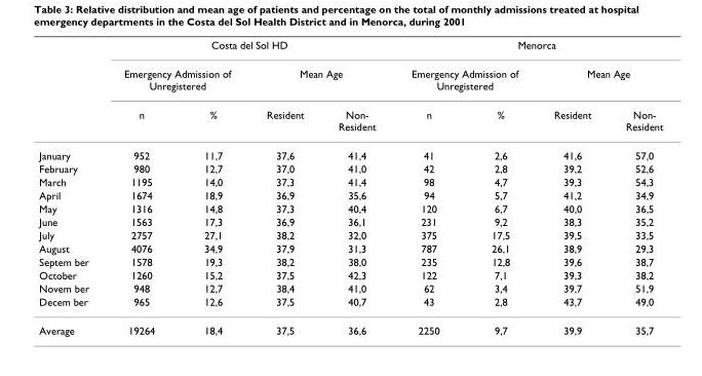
<table><thead><tr><td rowspan="3"></td><td colspan="4">Costa del Sol HD</td><td colspan="4">Menorca</td></tr><tr><td colspan="2">Emergency Admission of Unregistered</td><td colspan="2">Mean Age</td><td colspan="2">Emergency Admission of Unregistered</td><td colspan="2">Mean Age</td></tr><tr><td>n</td><td>%</td><td>Resident</td><td>Non- Resident</td><td>n</td><td>%</td><td>Resident</td><td>Non- Resident</td></tr></thead><tbody><tr><td>January</td><td>952</td><td>11,7</td><td>37,6</td><td>41,4</td><td>41</td><td>2,6</td><td>41,6</td><td>57,0</td></tr><tr><td>February</td><td>980</td><td>12,7</td><td>37,0</td><td>41,0</td><td>42</td><td>2,8</td><td>39,2</td><td>52,6</td></tr><tr><td>March</td><td>1195</td><td>14,0</td><td>37,3</td><td>41,4</td><td>98</td><td>4,7</td><td>39,3</td><td>54,3</td></tr><tr><td>April</td><td>1674</td><td>18,9</td><td>36,9</td><td>35,6</td><td>94</td><td>5,7</td><td>41,2</td><td>34,9</td></tr><tr><td>May</td><td>1316</td><td>14,8</td><td>37,3</td><td>40,4</td><td>120</td><td>6,7</td><td>40,0</td><td>36,5</td></tr><tr><td>June</td><td>1563</td><td>17,3</td><td>36,9</td><td>36,1</td><td>231</td><td>9,2</td><td>38,3</td><td>35,2</td></tr><tr><td>July</td><td>2757</td><td>27,1</td><td>38,2</td><td>32,0</td><td>375</td><td>17,5</td><td>39,5</td><td>33,5</td></tr><tr><td>August</td><td>4076</td><td>34,9</td><td>37,9</td><td>31,3</td><td>787</td><td>26,1</td><td>38,9</td><td>29,3</td></tr><tr><td>Septem ber</td><td>1578</td><td>19,3</td><td>38,2</td><td>38,0</td><td>235</td><td>12,8</td><td>39,6</td><td>38,7</td></tr><tr><td>October</td><td>1260</td><td>15,2</td><td>37,5</td><td>42,3</td><td>122</td><td>7,1</td><td>39,3</td><td>38,2</td></tr><tr><td>Novem ber</td><td>948</td><td>12,7</td><td>38,4</td><td>41,0</td><td>62</td><td>3,4</td><td>39,7</td><td>51,9</td></tr><tr><td>Decem ber</td><td>965</td><td>12,6</td><td>37,5</td><td>40,7</td><td>43</td><td>2,8</td><td>43,7</td><td>49,0</td></tr><tr><td>Average</td><td>19264</td><td>18,4</td><td>37,5</td><td>36,6</td><td>2250</td><td>9,7</td><td>39,9</td><td>35,7</td></tr></tbody></table>